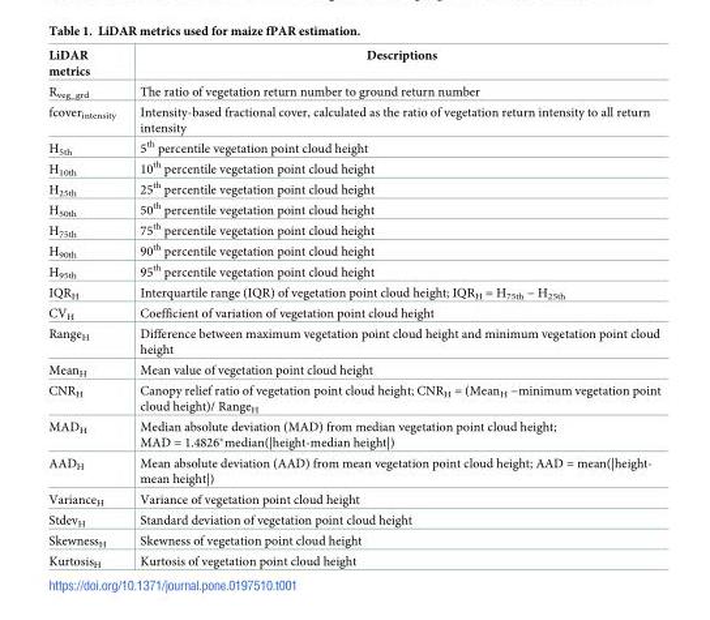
<table><thead><tr><td>LiDAR metrics</td><td>Descriptions</td></tr></thead><tbody><tr><td>R<sub>veg_grd</sub></td><td>The ratio of vegetation return number to ground return number</td></tr><tr><td>fcover<sub>intensity</sub></td><td>Intensity-based fractional cover, calculated as the ratio of vegetation return intensity to all return intensity</td></tr><tr><td>H<sub>5th</sub></td><td>5<sup>th</sup> percentile vegetation point cloud height</td></tr><tr><td>H<sub>10th</sub></td><td>10<sup>th</sup> percentile vegetation point cloud height</td></tr><tr><td>H<sub>25th</sub></td><td>25<sup>th</sup> percentile vegetation point cloud height</td></tr><tr><td>H<sub>50th</sub></td><td>50<sup>th</sup> percentile vegetation point cloud height</td></tr><tr><td>H<sub>75th</sub></td><td>75<sup>th</sup> percentile vegetation point cloud height</td></tr><tr><td>H<sub>90th</sub></td><td>90<sup>th</sup> percentile vegetation point cloud height</td></tr><tr><td>H<sub>95th</sub></td><td>95<sup>th</sup> percentile vegetation point cloud height</td></tr><tr><td>IQR<sub>H</sub></td><td>Interquartile range (IQR) of vegetation point cloud height; IQR<sub>H</sub> = H<sub>75th</sub> − H<sub>25th</sub></td></tr><tr><td>CV<sub>H</sub></td><td>Coefficient of variation of vegetation point cloud height</td></tr><tr><td>Range<sub>H</sub></td><td>Difference between maximum vegetation point cloud height and minimum vegetation point cloud height</td></tr><tr><td>Mean<sub>H</sub></td><td>Mean value of vegetation point cloud height</td></tr><tr><td>CNR<sub>H</sub></td><td>Canopy relief ratio of vegetation point cloud height; CNR<sub>H</sub> = (Mean<sub>H</sub> −minimum vegetation point cloud height)/ Range<sub>H</sub></td></tr><tr><td>MAD<sub>H</sub></td><td>Median absolute deviation (MAD) from median vegetation point cloud height; MAD = 1.4826*median(|height-median height|)</td></tr><tr><td>AAD<sub>H</sub></td><td>Mean absolute deviation (AAD) from mean vegetation point cloud height; AAD = mean(|height- mean height|)</td></tr><tr><td>Variance<sub>H</sub></td><td>Variance of vegetation point cloud height</td></tr><tr><td>Stdev<sub>H</sub></td><td>Standard deviation of vegetation point cloud height</td></tr><tr><td>Skewness<sub>H</sub></td><td>Skewness of vegetation point cloud height</td></tr><tr><td>Kurtosis<sub>H</sub></td><td>Kurtosis of vegetation point cloud height</td></tr></tbody></table>